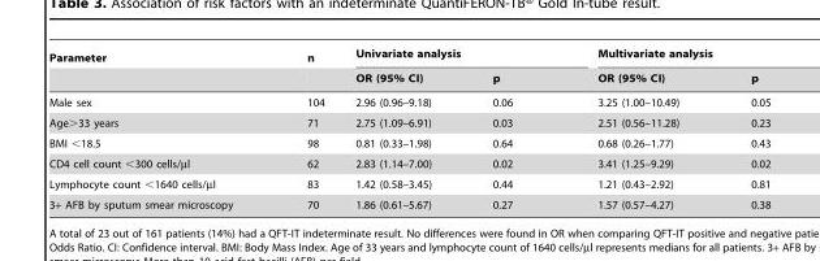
<table><thead><tr><td rowspan="2">Parameter</td><td rowspan="2">n</td><td colspan="2">Univariate analysis</td><td colspan="2">Multivariate analysis</td></tr><tr><td>OR (95% CI)</td><td>p</td><td>OR (95% CI)</td><td>p</td></tr></thead><tbody><tr><td>Male sex</td><td>104</td><td>2.96 (0.96–9.18)</td><td>0.06</td><td>3.25 (1.00–10.49)</td><td>0.05</td></tr><tr><td>Age&gt;33 years</td><td>71</td><td>2.75 (1.09–6.91)</td><td>0.03</td><td>2.51 (0.56–11.28)</td><td>0.23</td></tr><tr><td>BMI &lt;18.5</td><td>98</td><td>0.81 (0.33–1.98)</td><td>0.64</td><td>0.68 (0.26–1.77)</td><td>0.43</td></tr><tr><td>CD4 cell count &lt;300 cells/µl</td><td>62</td><td>2.83 (1.14–7.00)</td><td>0.02</td><td>3.41 (1.25–9.29)</td><td>0.02</td></tr><tr><td>Lymphocyte count &lt;1640 cells/µl</td><td>83</td><td>1.42 (0.58–3.45)</td><td>0.44</td><td>1.21 (0.43–2.92)</td><td>0.81</td></tr><tr><td>3+ AFB by sputum smear microscopy</td><td>70</td><td>1.86 (0.61–5.67)</td><td>0.27</td><td>1.57 (0.57–4.27)</td><td>0.38</td></tr></tbody></table>